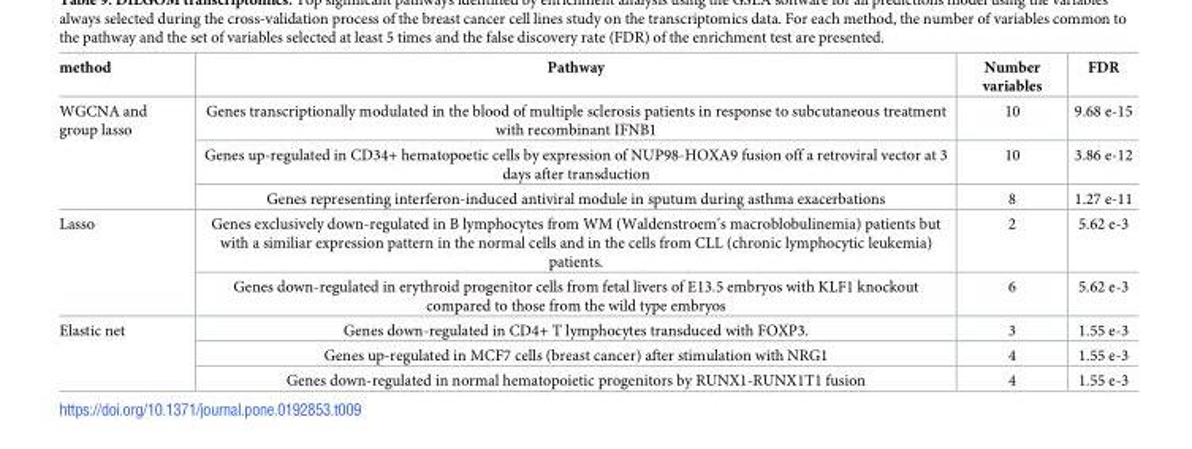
<table><thead><tr><td>method</td><td>Pathway</td><td>Number variables</td><td>FDR</td></tr></thead><tbody><tr><td rowspan="3">WGCNA and group lasso</td><td>Genes transcriptionally modulated in the blood of multiple sclerosis patients in response to subcutaneous treatment with recombinant IFNB1</td><td>10</td><td>9.68 e-15</td></tr><tr><td>Genes up-regulated in CD34+ hematopoetic cells by expression of NUP98-HOXA9 fusion off a retroviral vector at 3 days after transduction</td><td>10</td><td>3.86 e-12</td></tr><tr><td>Genes representing interferon-induced antiviral module in sputum during asthma exacerbations</td><td>8</td><td>1.27 e-11</td></tr><tr><td rowspan="2">Lasso</td><td>Genes exclusively down-regulated in B lymphocytes from WM (Waldenstroem’s macroblobulinemia) patients but with a similiar expression pattern in the normal cells and in the cells from CLL (chronic lymphocytic leukemia) patients.</td><td>2</td><td>5.62 e-3</td></tr><tr><td>Genes down-regulated in erythroid progenitor cells from fetal livers of E13.5 embryos with KLF1 knockout compared to those from the wild type embryos</td><td>6</td><td>5.62 e-3</td></tr><tr><td rowspan="3">Elastic net</td><td>Genes down-regulated in CD4+ T lymphocytes transduced with FOXP3.</td><td>3</td><td>1.55 e-3</td></tr><tr><td>Genes up-regulated in MCF7 cells (breast cancer) after stimulation with NRG1</td><td>4</td><td>1.55 e-3</td></tr><tr><td>Genes down-regulated in normal hematopoietic progenitors by RUNX1-RUNX1T1 fusion</td><td>4</td><td>1.55 e-3</td></tr></tbody></table>